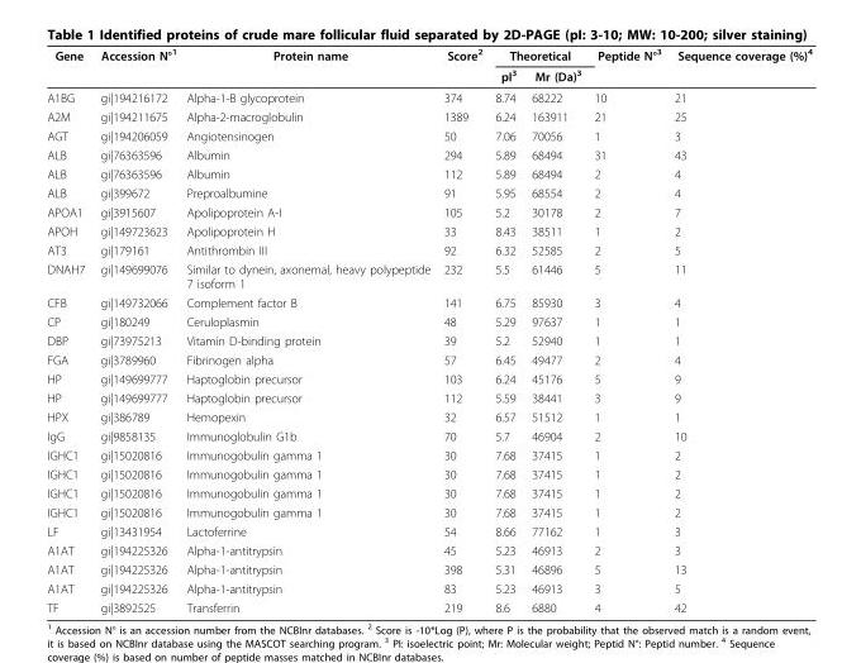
<table><thead><tr><td rowspan="2">Gene</td><td rowspan="2">Accession N°<sup>1</sup></td><td rowspan="2">Protein name</td><td rowspan="2">Score<sup>2</sup></td><td colspan="2">Theoretical</td><td rowspan="2">Peptide N°<sup>3</sup></td><td rowspan="2">Sequence coverage (%)<sup>4</sup></td></tr><tr><td>pI<sup>3</sup></td><td>Mr (Da)<sup>3</sup></td></tr></thead><tbody><tr><td>A1BG</td><td>gi|194216172</td><td>Alpha-1-B glycoprotein</td><td>374</td><td>8.74</td><td>68222</td><td>10</td><td>21</td></tr><tr><td>A2M</td><td>gi|194211675</td><td>Alpha-2-macroglobulin</td><td>1389</td><td>6.24</td><td>163911</td><td>21</td><td>25</td></tr><tr><td>AGT</td><td>gi|194206059</td><td>Angiotensinogen</td><td>50</td><td>7.06</td><td>70056</td><td>1</td><td>3</td></tr><tr><td>ALB</td><td>gi|76363596</td><td>Albumin</td><td>294</td><td>5.89</td><td>68494</td><td>31</td><td>43</td></tr><tr><td>ALB</td><td>gi|76363596</td><td>Albumin</td><td>112</td><td>5.89</td><td>68494</td><td>2</td><td>4</td></tr><tr><td>ALB</td><td>gi|399672</td><td>Preproalbumine</td><td>91</td><td>5.95</td><td>68554</td><td>2</td><td>4</td></tr><tr><td>APOA1</td><td>gi|3915607</td><td>Apolipoprotein A-I</td><td>105</td><td>5.2</td><td>30178</td><td>2</td><td>7</td></tr><tr><td>APOH</td><td>gi|149723623</td><td>Apolipoprotein H</td><td>33</td><td>8.43</td><td>38511</td><td>1</td><td>2</td></tr><tr><td>AT3</td><td>gi|179161</td><td>Antithrombin III</td><td>92</td><td>6.32</td><td>52585</td><td>2</td><td>5</td></tr><tr><td>DNAH7</td><td>gi|149699076</td><td>Similar to dynein, axonemal, heavy polypeptide 7 isoform 1</td><td>232</td><td>5.5</td><td>61446</td><td>5</td><td>11</td></tr><tr><td>CFB</td><td>gi|149732066</td><td>Complement factor B</td><td>141</td><td>6.75</td><td>85930</td><td>3</td><td>4</td></tr><tr><td>CP</td><td>gi|180249</td><td>Ceruloplasmin</td><td>48</td><td>5.29</td><td>97637</td><td>1</td><td>1</td></tr><tr><td>DBP</td><td>gi|73975213</td><td>Vitamin D-binding protein</td><td>39</td><td>5.2</td><td>52940</td><td>1</td><td>1</td></tr><tr><td>FGA</td><td>gi|3789960</td><td>Fibrinogen alpha</td><td>57</td><td>6.45</td><td>49477</td><td>2</td><td>4</td></tr><tr><td>HP</td><td>gi|149699777</td><td>Haptoglobin precursor</td><td>103</td><td>6.24</td><td>45176</td><td>5</td><td>9</td></tr><tr><td>HP</td><td>gi|149699777</td><td>Haptoglobin precursor</td><td>112</td><td>5.59</td><td>38441</td><td>3</td><td>9</td></tr><tr><td>HPX</td><td>gi|386789</td><td>Hemopexin</td><td>32</td><td>6.57</td><td>51512</td><td>1</td><td>1</td></tr><tr><td>IgG</td><td>gi|9858135</td><td>Immunoglobulin G1b</td><td>70</td><td>5.7</td><td>46904</td><td>2</td><td>10</td></tr><tr><td>IGHC1</td><td>gi|15020816</td><td>Immunogobulin gamma 1</td><td>30</td><td>7.68</td><td>37415</td><td>1</td><td>2</td></tr><tr><td>IGHC1</td><td>gi|15020816</td><td>Immunogobulin gamma 1</td><td>30</td><td>7.68</td><td>37415</td><td>1</td><td>2</td></tr><tr><td>IGHC1</td><td>gi|15020816</td><td>Immunogobulin gamma 1</td><td>30</td><td>7.68</td><td>37415</td><td>1</td><td>2</td></tr><tr><td>IGHC1</td><td>gi|15020816</td><td>Immunogobulin gamma 1</td><td>30</td><td>7.68</td><td>37415</td><td>1</td><td>2</td></tr><tr><td>LF</td><td>gi|13431954</td><td>Lactoferrine</td><td>54</td><td>8.66</td><td>77162</td><td>1</td><td>3</td></tr><tr><td>A1AT</td><td>gi|194225326</td><td>Alpha-1-antitrypsin</td><td>45</td><td>5.23</td><td>46913</td><td>2</td><td>3</td></tr><tr><td>A1AT</td><td>gi|194225326</td><td>Alpha-1-antitrypsin</td><td>398</td><td>5.31</td><td>46896</td><td>5</td><td>13</td></tr><tr><td>A1AT</td><td>gi|194225326</td><td>Alpha-1-antitrypsin</td><td>83</td><td>5.23</td><td>46913</td><td>3</td><td>5</td></tr><tr><td>TF</td><td>gi|3892525</td><td>Transferrin</td><td>219</td><td>8.6</td><td>6880</td><td>4</td><td>42</td></tr></tbody></table>